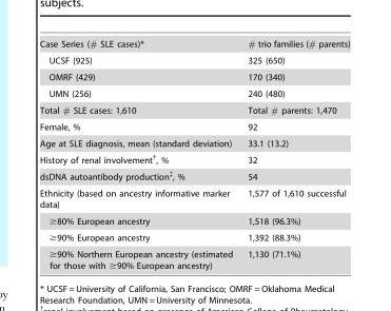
<table><tbody><tr><td>Case Series (# SLE cases)*</td><td># trio families (# parents)</td></tr><tr><td>UCSF (925)</td><td>325 (650)</td></tr><tr><td>OMRF (429)</td><td>170 (340)</td></tr><tr><td>UMN (256)</td><td>240 (480)</td></tr><tr><td>Total # SLE cases: 1,610</td><td>Total # parents: 1,470</td></tr><tr><td>Female, %</td><td>92</td></tr><tr><td>Age at SLE diagnosis, mean (standard deviation)</td><td>33.1 (13.2)</td></tr><tr><td>History of renal involvement†, %</td><td>32</td></tr><tr><td>dsDNA autoantibody production‡, %</td><td>54</td></tr><tr><td>Ethnicity (based on ancestry informative marker data)</td><td>1,577 of 1,610 successful</td></tr><tr><td>≥80% European ancestry</td><td>1,518 (96.3%)</td></tr><tr><td>≥90% European ancestry</td><td>1,392 (88.3%)</td></tr><tr><td>≥90% Northern European ancestry (estimated for those with ≥90% European ancestry)</td><td>1,130 (71.1%)</td></tr></tbody></table>